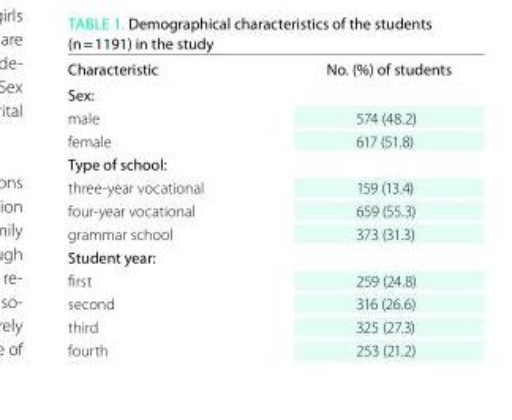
<table><thead><tr><td>Characteristic</td><td>No. (%) of students</td></tr></thead><tbody><tr><td colspan="2">Sex:</td></tr><tr><td>male</td><td>574 (48.2)</td></tr><tr><td>female</td><td>617 (51.8)</td></tr><tr><td colspan="2">type of school:</td></tr><tr><td>three-year vocational</td><td>159 (13.4)</td></tr><tr><td>four-year vocational</td><td>659 (55.3)</td></tr><tr><td>grammar school</td><td>373 (31.3)</td></tr><tr><td colspan="2">Student year:</td></tr><tr><td>first</td><td>259 (24.8)</td></tr><tr><td>second</td><td>316 (26.6)</td></tr><tr><td>third</td><td>325 (27.3)</td></tr><tr><td>fourth</td><td>253 (21.2)</td></tr></tbody></table>